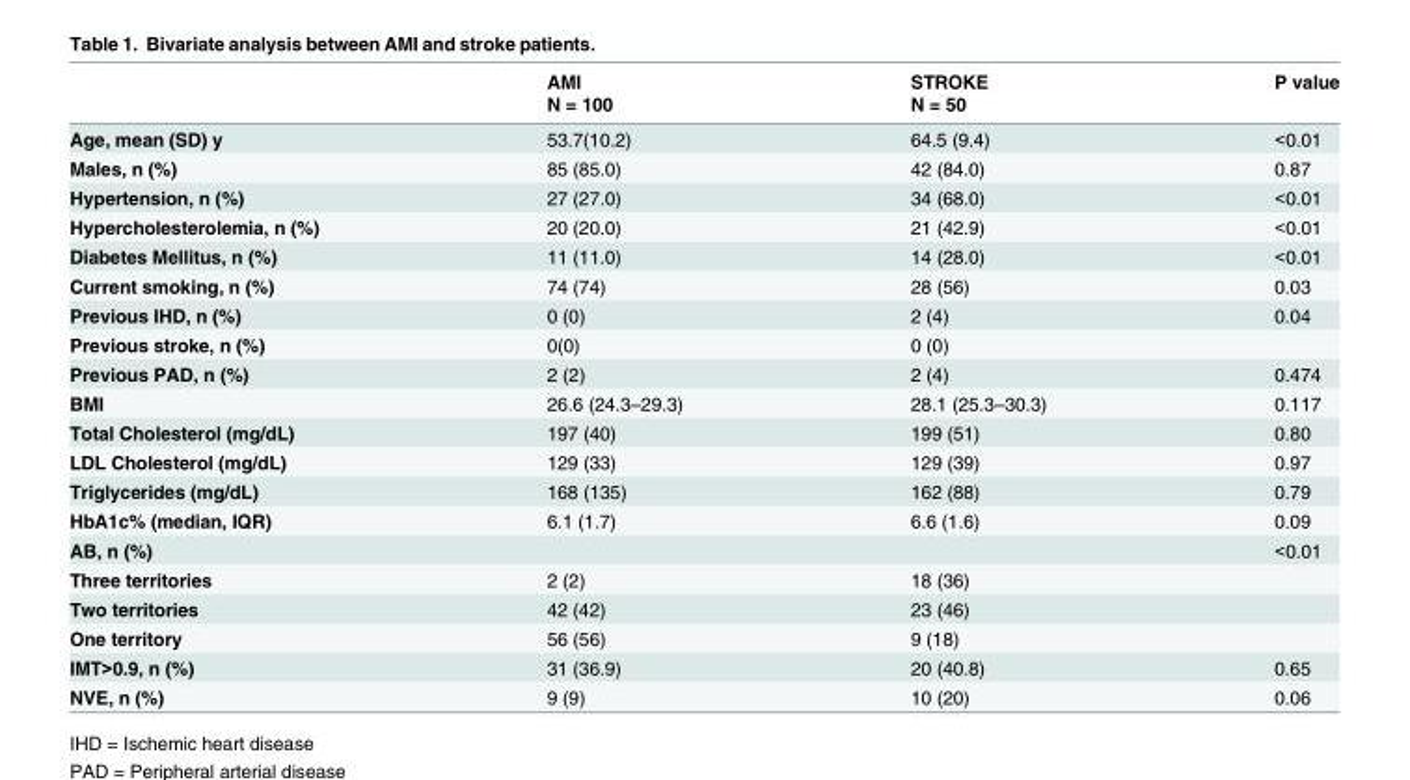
<table><thead><tr><td rowspan="2"></td><td rowspan="2">AMI N = 100</td><td rowspan="2">STROKE N = 50</td><td rowspan="2">P value</td></tr><tr></tr></thead><tbody><tr><td>Age, mean (SD) y</td><td>53.7(10.2)</td><td>64.5 (9.4)</td><td>&lt;0.01</td></tr><tr><td>Males, n (%)</td><td>85 (85.0)</td><td>42 (84.0)</td><td>0.87</td></tr><tr><td>Hypertension, n (%)</td><td>27 (27.0)</td><td>34 (68.0)</td><td>&lt;0.01</td></tr><tr><td>Hypercholesterolemia, n (%)</td><td>20 (20.0)</td><td>21 (42.9)</td><td>&lt;0.01</td></tr><tr><td>Diabetes Mellitus, n (%)</td><td>11 (11.0)</td><td>14 (28.0)</td><td>&lt;0.01</td></tr><tr><td>Current smoking, n (%)</td><td>74 (74)</td><td>28 (56)</td><td>0.03</td></tr><tr><td>Previous IHD, n (%)</td><td>0 (0)</td><td>2 (4)</td><td>0.04</td></tr><tr><td>Previous stroke, n (%)</td><td>0(0)</td><td>0 (0)</td><td></td></tr><tr><td>Previous PAD, n (%)</td><td>2 (2)</td><td>2 (4)</td><td>0.474</td></tr><tr><td>BMI</td><td>26.6 (24.3–29.3)</td><td>28.1 (25.3–30.3)</td><td>0.117</td></tr><tr><td>Total Cholesterol (mg/dL)</td><td>197 (40)</td><td>199 (51)</td><td>0.80</td></tr><tr><td>LDL Cholesterol (mg/dL)</td><td>129 (33)</td><td>129 (39)</td><td>0.97</td></tr><tr><td>Triglycerides (mg/dL)</td><td>168 (135)</td><td>162 (88)</td><td>0.79</td></tr><tr><td>HbA1c% (median, IQR)</td><td>6.1 (1.7)</td><td>6.6 (1.6)</td><td>0.09</td></tr><tr><td>AB, n (%)</td><td></td><td></td><td>&lt;0.01</td></tr><tr><td>Three territories</td><td>2 (2)</td><td>18 (36)</td><td></td></tr><tr><td>Two territories</td><td>42 (42)</td><td>23 (46)</td><td></td></tr><tr><td>One territory</td><td>56 (56)</td><td>9 (18)</td><td></td></tr><tr><td>IMT&gt;0.9, n (%)</td><td>31 (36.9)</td><td>20 (40.8)</td><td>0.65</td></tr><tr><td>NVE, n (%)</td><td>9 (9)</td><td>10 (20)</td><td>0.06</td></tr></tbody></table>